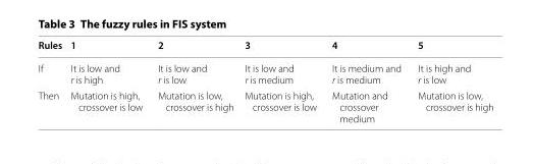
<table><thead><tr><td>Rules</td><td>1</td><td>2</td><td>3</td><td>4</td><td>5</td></tr></thead><tbody><tr><td>If</td><td>It is low and r is high</td><td>It is low and r is low</td><td>It is low and r is medium</td><td>It is medium and r is medium</td><td>It is high and r is low</td></tr><tr><td>Then</td><td>Mutation is high, crossover is low</td><td>Mutation is low, crossover is high</td><td>Mutation is high, crossover is low</td><td>Mutation and crossover medium</td><td>Mutation is low, crossover is high</td></tr></tbody></table>